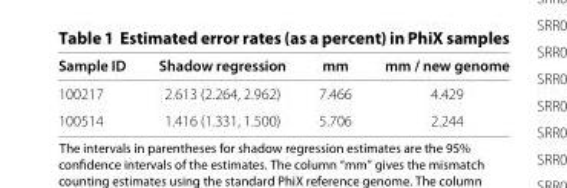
<table><thead><tr><td>Sample ID</td><td>Shadow regression</td><td>mm</td><td>mm / new genome</td></tr></thead><tbody><tr><td>100217</td><td>2.613 (2.264, 2.962)</td><td>7.466</td><td>4.429</td></tr><tr><td>100514</td><td>1.416 (1.331, 1.500)</td><td>5.706</td><td>2.244</td></tr></tbody></table>